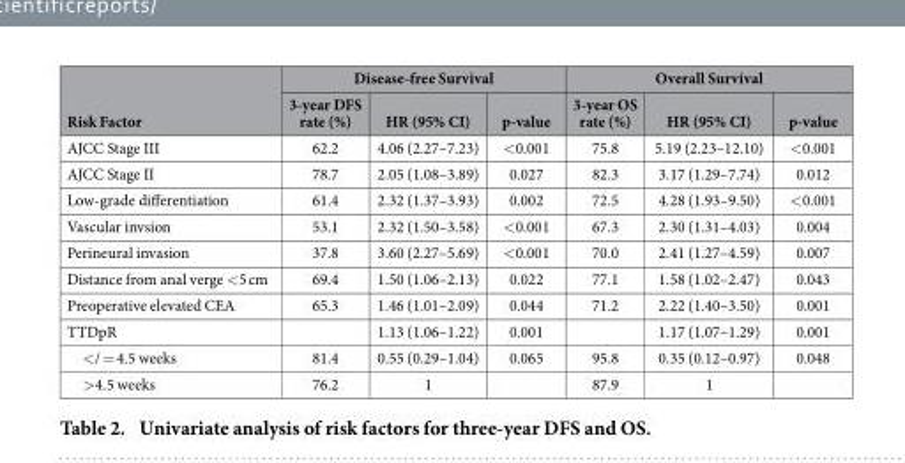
<table><thead><tr><td rowspan="2">Risk Factor</td><td colspan="3">Disease-free Survival</td><td colspan="3">Overall Survival</td></tr><tr><td>3-year DFS rate (%)</td><td>HR (95% CI)</td><td>p-value</td><td>3-year OS rate (%)</td><td>HR (95% CI)</td><td>p-value</td></tr></thead><tbody><tr><td>AJCC Stage III</td><td>62.2</td><td>4.06 (2.27–7.23)</td><td>&lt; 0.001</td><td>75.8</td><td>5.19 (2.23–12.10)</td><td>&lt; 0.001</td></tr><tr><td>AJCC Stage II</td><td>78.7</td><td>2.05 (1.08–3.89)</td><td>0.027</td><td>82.3</td><td>3.17 (1.29–7.74)</td><td>0.012</td></tr><tr><td>Low-grade differentiation</td><td>61.4</td><td>2.32 (1.37–3.93)</td><td>0.002</td><td>72.5</td><td>4.28 (1.93–9.50)</td><td>&lt; 0.001</td></tr><tr><td>Vascular invsion</td><td>53.1</td><td>2.32 (1.50–3.58)</td><td>&lt; 0.001</td><td>67.3</td><td>2.30 (1.31–4.03)</td><td>0.004</td></tr><tr><td>Perineural invasion</td><td>37.8</td><td>3.60 (2.27–5.69)</td><td>&lt; 0.001</td><td>70.0</td><td>2.41 (1.27–4.59)</td><td>0.007</td></tr><tr><td>Distance from anal verge &lt; 5 cm</td><td>69.4</td><td>1.50 (1.06–2.13)</td><td>0.022</td><td>77.1</td><td>1.58 (1.02–2.47)</td><td>0.043</td></tr><tr><td>Preoperative elevated CEA</td><td>65.3</td><td>1.46 (1.01–2.09)</td><td>0.044</td><td>71.2</td><td>2.22 (1.40–3.50)</td><td>0.001</td></tr><tr><td>TTDpR</td><td></td><td>1.13 (1.06–1.22)</td><td>0.001</td><td></td><td>1.17 (1.07–1.29)</td><td>0.001</td></tr><tr><td>&lt; / = 4.5 weeks</td><td>81.4</td><td>0.55 (0.29–1.04)</td><td>0.065</td><td>95.8</td><td>0.35 (0.12–0.97)</td><td>0.048</td></tr><tr><td>&gt; 4.5 weeks</td><td>76.2</td><td>1</td><td></td><td>87.9</td><td>1</td><td></td></tr></tbody></table>